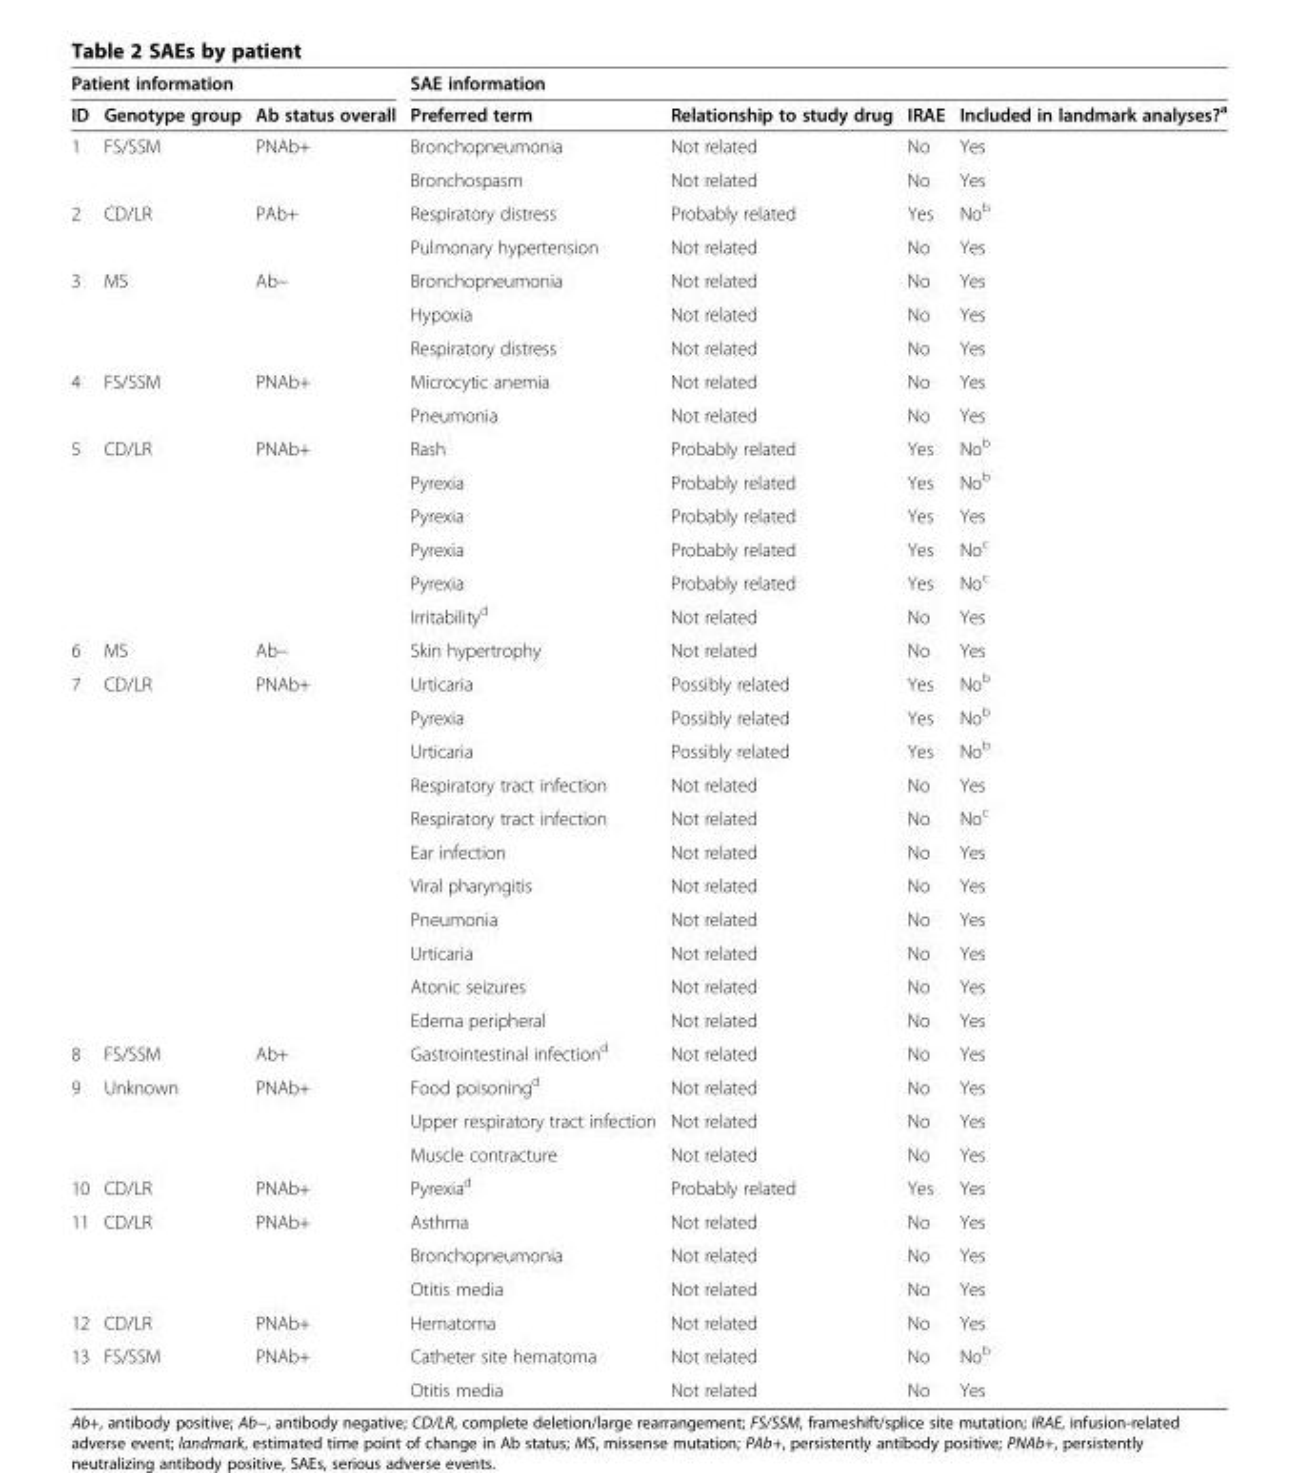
<table><thead><tr><td colspan="3">Patient information</td><td colspan="4">SAE information</td></tr><tr><td>ID</td><td>Genotype group</td><td>Ab status overall</td><td>Preferred term</td><td>Relationship to study drug</td><td>IRAE</td><td>Included in landmark analyses?<sup>a</sup></td></tr></thead><tbody><tr><td rowspan="2">1</td><td rowspan="2">FS/SSM</td><td rowspan="2">PNAb+</td><td>Bronchopneumonia</td><td>Not related</td><td>No</td><td>Yes</td></tr><tr><td>Bronchospasm</td><td>Not related</td><td>No</td><td>Yes</td></tr><tr><td rowspan="2">2</td><td rowspan="2">CD/LR</td><td rowspan="2">PAb+</td><td>Respiratory distress</td><td>Probably related</td><td>Yes</td><td>No<sup>b</sup></td></tr><tr><td>Pulmonary hypertension</td><td>Not related</td><td>No</td><td>Yes</td></tr><tr><td rowspan="3">3</td><td rowspan="3">MS</td><td rowspan="3">Ab−</td><td>Bronchopneumonia</td><td>Not related</td><td>No</td><td>Yes</td></tr><tr><td>Hypoxia</td><td>Not related</td><td>No</td><td>Yes</td></tr><tr><td>Respiratory distress</td><td>Not related</td><td>No</td><td>Yes</td></tr><tr><td rowspan="2">4</td><td rowspan="2">FS/SSM</td><td rowspan="2">PNAb+</td><td>Microcytic anemia</td><td>Not related</td><td>No</td><td>Yes</td></tr><tr><td>Pneumonia</td><td>Not related</td><td>No</td><td>Yes</td></tr><tr><td rowspan="6">5</td><td rowspan="6">CD/LR</td><td rowspan="6">PNAb+</td><td>Rash</td><td>Probably related</td><td>Yes</td><td>No<sup>b</sup></td></tr><tr><td>Pyrexia</td><td>Probably related</td><td>Yes</td><td>No<sup>b</sup></td></tr><tr><td>Pyrexia</td><td>Probably related</td><td>Yes</td><td>Yes</td></tr><tr><td>Pyrexia</td><td>Probably related</td><td>Yes</td><td>No<sup>c</sup></td></tr><tr><td>Pyrexia</td><td>Probably related</td><td>Yes</td><td>No<sup>c</sup></td></tr><tr><td>Irritability<sup>d</sup></td><td>Not related</td><td>No</td><td>Yes</td></tr><tr><td>6</td><td>MS</td><td>Ab−</td><td>Skin hypertrophy</td><td>Not related</td><td>No</td><td>Yes</td></tr><tr><td rowspan="11">7</td><td rowspan="11">CD/LR</td><td rowspan="11">PNAb+</td><td>Urticaria</td><td>Possibly related</td><td>Yes</td><td>No<sup>b</sup></td></tr><tr><td>Pyrexia</td><td>Possibly related</td><td>Yes</td><td>No<sup>b</sup></td></tr><tr><td>Urticaria</td><td>Possibly related</td><td>Yes</td><td>No<sup>b</sup></td></tr><tr><td>Respiratory tract infection</td><td>Not related</td><td>No</td><td>Yes</td></tr><tr><td>Respiratory tract infection</td><td>Not related</td><td>No</td><td>No<sup>c</sup></td></tr><tr><td>Ear infection</td><td>Not related</td><td>No</td><td>Yes</td></tr><tr><td>Viral pharyngitis</td><td>Not related</td><td>No</td><td>Yes</td></tr><tr><td>Pneumonia</td><td>Not related</td><td>No</td><td>Yes</td></tr><tr><td>Urticaria</td><td>Not related</td><td>No</td><td>Yes</td></tr><tr><td>Atonic seizures</td><td>Not related</td><td>No</td><td>Yes</td></tr><tr><td>Edema peripheral</td><td>Not related</td><td>No</td><td>Yes</td></tr><tr><td>8</td><td>FS/SSM</td><td>Ab+</td><td>Gastrointestinal infection<sup>d</sup></td><td>Not related</td><td>No</td><td>Yes</td></tr><tr><td rowspan="3">9</td><td rowspan="3">Unknown</td><td rowspan="3">PNAb+</td><td>Food poisoning<sup>d</sup></td><td>Not related</td><td>No</td><td>Yes</td></tr><tr><td>Upper respiratory tract infection</td><td>Not related</td><td>No</td><td>Yes</td></tr><tr><td>Muscle contracture</td><td>Not related</td><td>No</td><td>Yes</td></tr><tr><td>10</td><td>CD/LR</td><td>PNAb+</td><td>Pyrexia<sup>d</sup></td><td>Probably related</td><td>Yes</td><td>Yes</td></tr><tr><td rowspan="3">11</td><td rowspan="3">CD/LR</td><td rowspan="3">PNAb+</td><td>Asthma</td><td>Not related</td><td>No</td><td>Yes</td></tr><tr><td>Bronchopneumonia</td><td>Not related</td><td>No</td><td>Yes</td></tr><tr><td>Otitis media</td><td>Not related</td><td>No</td><td>Yes</td></tr><tr><td>12</td><td>CD/LR</td><td>PNAb+</td><td>Hematoma</td><td>Not related</td><td>No</td><td>Yes</td></tr><tr><td rowspan="2">13</td><td rowspan="2">FS/SSM</td><td rowspan="2">PNAb+</td><td>Catheter site hematoma</td><td>Not related</td><td>No</td><td>No<sup>b</sup></td></tr><tr><td>Otitis media</td><td>Not related</td><td>No</td><td>Yes</td></tr></tbody></table>